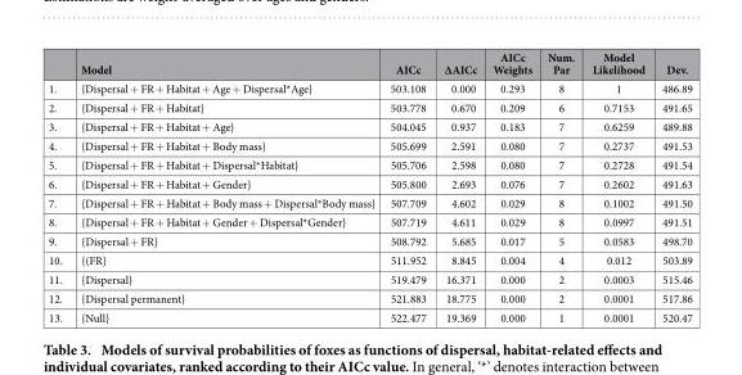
<table><thead><tr><td></td><td>Model</td><td>AICc</td><td>ΔAICc</td><td>AICc Weights</td><td>Num. Par</td><td>Model Likelihood</td><td>Dev.</td></tr></thead><tbody><tr><td>1.</td><td>{Dispersal + FR + Habitat + Age + Dispersal*Age}</td><td>503.108</td><td>0.000</td><td>0.293</td><td>8</td><td>1</td><td>486.89</td></tr><tr><td>2.</td><td>{Dispersal + FR + Habitat}</td><td>503.778</td><td>0.670</td><td>0.209</td><td>6</td><td>0.7153</td><td>491.65</td></tr><tr><td>3.</td><td>{Dispersal + FR + Habitat + Age}</td><td>504.045</td><td>0.937</td><td>0.183</td><td>7</td><td>0.6259</td><td>489.88</td></tr><tr><td>4.</td><td>{Dispersal + FR + Habitat + Body mass}</td><td>505.699</td><td>2.591</td><td>0.080</td><td>7</td><td>0.2737</td><td>491.53</td></tr><tr><td>5.</td><td>{Dispersal + FR + Habitat + Dispersal*Habitat}</td><td>505.706</td><td>2.598</td><td>0.080</td><td>7</td><td>0.2728</td><td>491.54</td></tr><tr><td>6.</td><td>{Dispersal + FR + Habitat + Gender}</td><td>505.800</td><td>2.693</td><td>0.076</td><td>7</td><td>0.2602</td><td>491.63</td></tr><tr><td>7.</td><td>{Dispersal + FR + Habitat + Body mass + Dispersal*Body mass}</td><td>507.709</td><td>4.602</td><td>0.029</td><td>8</td><td>0.1002</td><td>491.50</td></tr><tr><td>8.</td><td>{Dispersal + FR + Habitat + Gender + Dispersal*Gender}</td><td>507.719</td><td>4.611</td><td>0.029</td><td>8</td><td>0.0997</td><td>491.51</td></tr><tr><td>9.</td><td>{Dispersal + FR}</td><td>508.792</td><td>5.685</td><td>0.017</td><td>5</td><td>0.0583</td><td>498.70</td></tr><tr><td>10.</td><td>{(FR}</td><td>511.952</td><td>8.845</td><td>0.004</td><td>4</td><td>0.012</td><td>503.89</td></tr><tr><td>11.</td><td>{Dispersal}</td><td>519.479</td><td>16.371</td><td>0.000</td><td>2</td><td>0.0003</td><td>515.46</td></tr><tr><td>12.</td><td>{Dispersal permanent}</td><td>521.883</td><td>18.775</td><td>0.000</td><td>2</td><td>0.0001</td><td>517.86</td></tr><tr><td>13.</td><td>{Null}</td><td>522.477</td><td>19.369</td><td>0.000</td><td>1</td><td>0.0001</td><td>520.47</td></tr></tbody></table>